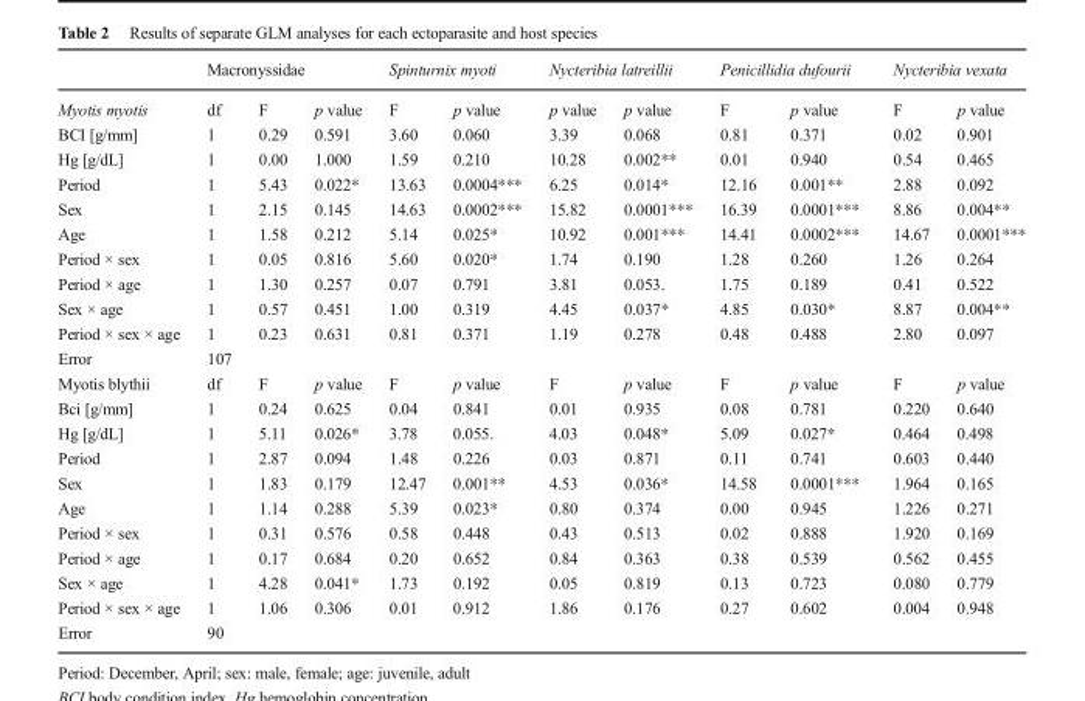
<table><thead><tr><td rowspan="2">Myotis myotis</td><td colspan="3">Macronyssidae</td><td colspan="2">Spinturnix myoti</td><td colspan="2">Nycteribia latreillii</td><td colspan="2">Penicillidia dufourii</td><td colspan="2">Nycteribia vexata</td></tr><tr><td>df</td><td>F</td><td>p value</td><td>F</td><td>p value</td><td>p value</td><td>p value</td><td>F</td><td>p value</td><td>F</td><td>p value</td></tr></thead><tbody><tr><td>BCI [g/mm]</td><td>1</td><td>0.29</td><td>0.591</td><td>3.60</td><td>0.060</td><td>3.39</td><td>0.068</td><td>0.81</td><td>0.371</td><td>0.02</td><td>0.901</td></tr><tr><td>Hg [g/dL]</td><td>1</td><td>0.00</td><td>1.000</td><td>1.59</td><td>0.210</td><td>10.28</td><td>0.002**</td><td>0.01</td><td>0.940</td><td>0.54</td><td>0.465</td></tr><tr><td>Period</td><td>1</td><td>5.43</td><td>0.022*</td><td>13.63</td><td>0.0004***</td><td>6.25</td><td>0.014*</td><td>12.16</td><td>0.001**</td><td>2.88</td><td>0.092</td></tr><tr><td>Sex</td><td>1</td><td>2.15</td><td>0.145</td><td>14.63</td><td>0.0002***</td><td>15.82</td><td>0.0001***</td><td>16.39</td><td>0.0001***</td><td>8.86</td><td>0.004**</td></tr><tr><td>Age</td><td>1</td><td>1.58</td><td>0.212</td><td>5.14</td><td>0.025*</td><td>10.92</td><td>0.001***</td><td>14.41</td><td>0.0002***</td><td>14.67</td><td>0.0001***</td></tr><tr><td>Period × sex</td><td>1</td><td>0.05</td><td>0.816</td><td>5.60</td><td>0.020*</td><td>1.74</td><td>0.190</td><td>1.28</td><td>0.260</td><td>1.26</td><td>0.264</td></tr><tr><td>Period × age</td><td>1</td><td>1.30</td><td>0.257</td><td>0.07</td><td>0.791</td><td>3.81</td><td>0.053.</td><td>1.75</td><td>0.189</td><td>0.41</td><td>0.522</td></tr><tr><td>Sex × age</td><td>1</td><td>0.57</td><td>0.451</td><td>1.00</td><td>0.319</td><td>4.45</td><td>0.037*</td><td>4.85</td><td>0.030*</td><td>8.87</td><td>0.004**</td></tr><tr><td>Period × sex × age</td><td>1</td><td>0.23</td><td>0.631</td><td>0.81</td><td>0.371</td><td>1.19</td><td>0.278</td><td>0.48</td><td>0.488</td><td>2.80</td><td>0.097</td></tr><tr><td>Error</td><td>107</td><td></td><td></td><td></td><td></td><td></td><td></td><td></td><td></td><td></td><td></td></tr><tr><td>Myotis blythii</td><td>df</td><td>F</td><td>p value</td><td>F</td><td>p value</td><td>F</td><td>p value</td><td>F</td><td>p value</td><td>F</td><td>p value</td></tr><tr><td>Bci [g/mm]</td><td>1</td><td>0.24</td><td>0.625</td><td>0.04</td><td>0.841</td><td>0.01</td><td>0.935</td><td>0.08</td><td>0.781</td><td>0.220</td><td>0.640</td></tr><tr><td>Hg [g/dL]</td><td>1</td><td>5.11</td><td>0.026*</td><td>3.78</td><td>0.055.</td><td>4.03</td><td>0.048*</td><td>5.09</td><td>0.027*</td><td>0.464</td><td>0.498</td></tr><tr><td>Period</td><td>1</td><td>2.87</td><td>0.094</td><td>1.48</td><td>0.226</td><td>0.03</td><td>0.871</td><td>0.11</td><td>0.741</td><td>0.603</td><td>0.440</td></tr><tr><td>Sex</td><td>1</td><td>1.83</td><td>0.179</td><td>12.47</td><td>0.001**</td><td>4.53</td><td>0.036*</td><td>14.58</td><td>0.0001***</td><td>1.964</td><td>0.165</td></tr><tr><td>Age</td><td>1</td><td>1.14</td><td>0.288</td><td>5.39</td><td>0.023*</td><td>0.80</td><td>0.374</td><td>0.00</td><td>0.945</td><td>1.226</td><td>0.271</td></tr><tr><td>Period × sex</td><td>1</td><td>0.31</td><td>0.576</td><td>0.58</td><td>0.448</td><td>0.43</td><td>0.513</td><td>0.02</td><td>0.888</td><td>1.920</td><td>0.169</td></tr><tr><td>Period × age</td><td>1</td><td>0.17</td><td>0.684</td><td>0.20</td><td>0.652</td><td>0.84</td><td>0.363</td><td>0.38</td><td>0.539</td><td>0.562</td><td>0.455</td></tr><tr><td>Sex × age</td><td>1</td><td>4.28</td><td>0.041*</td><td>1.73</td><td>0.192</td><td>0.05</td><td>0.819</td><td>0.13</td><td>0.723</td><td>0.080</td><td>0.779</td></tr><tr><td>Period × sex × age</td><td>1</td><td>1.06</td><td>0.306</td><td>0.01</td><td>0.912</td><td>1.86</td><td>0.176</td><td>0.27</td><td>0.602</td><td>0.004</td><td>0.948</td></tr><tr><td>Error</td><td>90</td><td></td><td></td><td></td><td></td><td></td><td></td><td></td><td></td><td></td><td></td></tr></tbody></table>